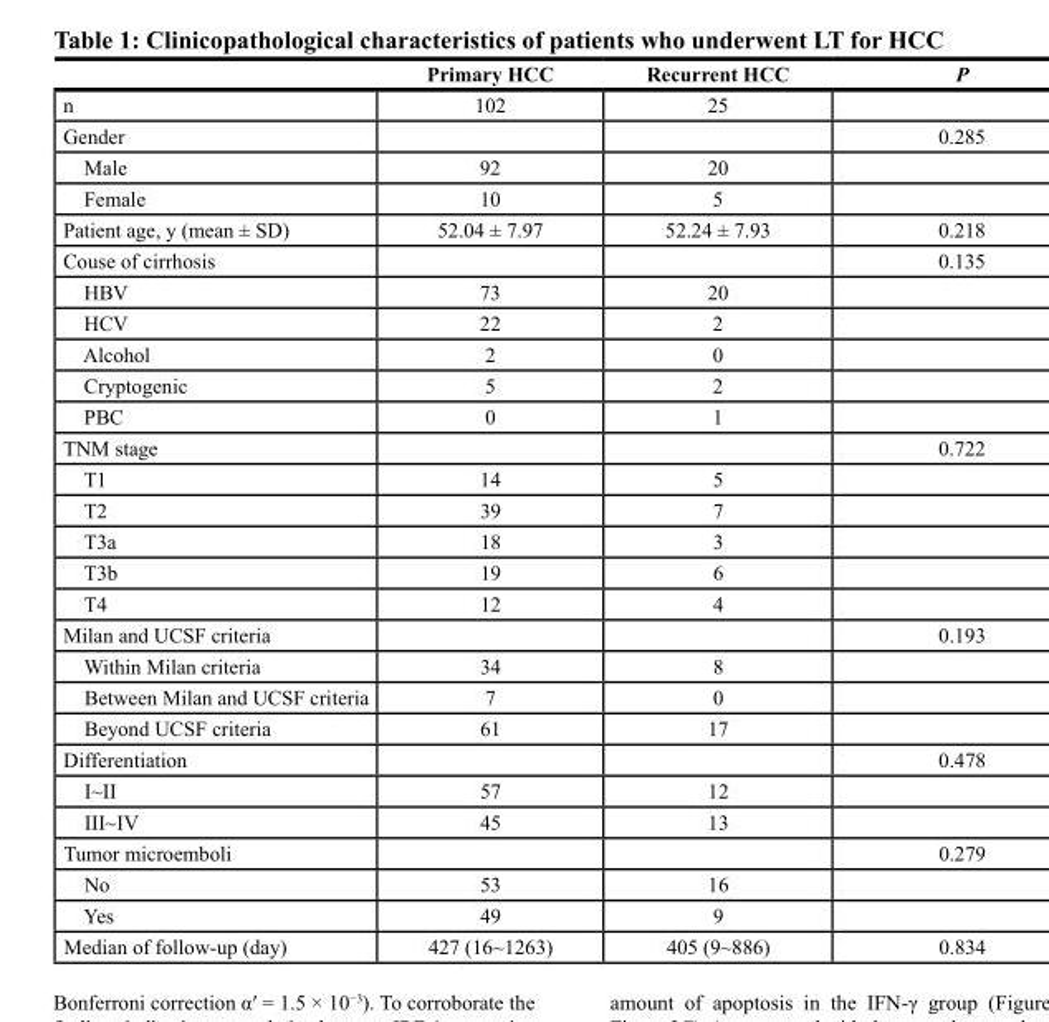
<table><thead><tr><td></td><td>Primary Hcc</td><td>recurrent Hcc</td><td>P</td></tr></thead><tbody><tr><td>n</td><td>102</td><td>25</td><td></td></tr><tr><td>Gender</td><td></td><td></td><td>0.285</td></tr><tr><td>Male</td><td>92</td><td>20</td><td></td></tr><tr><td>Female</td><td>10</td><td>5</td><td></td></tr><tr><td>Patient age, y (mean ± SD)</td><td>52.04 ± 7.97</td><td>52.24 ± 7.93</td><td>0.218</td></tr><tr><td>Couse of cirrhosis</td><td></td><td></td><td>0.135</td></tr><tr><td>HBV</td><td>73</td><td>20</td><td></td></tr><tr><td>HCV</td><td>22</td><td>2</td><td></td></tr><tr><td>Alcohol</td><td>2</td><td>0</td><td></td></tr><tr><td>Cryptogenic</td><td>5</td><td>2</td><td></td></tr><tr><td>PBC</td><td>0</td><td>1</td><td></td></tr><tr><td>TNM stage</td><td></td><td></td><td>0.722</td></tr><tr><td>T1</td><td>14</td><td>5</td><td></td></tr><tr><td>T2</td><td>39</td><td>7</td><td></td></tr><tr><td>T3a</td><td>18</td><td>3</td><td></td></tr><tr><td>T3b</td><td>19</td><td>6</td><td></td></tr><tr><td>T4</td><td>12</td><td>4</td><td></td></tr><tr><td>Milan and UCSF criteria</td><td></td><td></td><td>0.193</td></tr><tr><td>Within Milan criteria</td><td>34</td><td>8</td><td></td></tr><tr><td>Between Milan and UCSF criteria</td><td>7</td><td>0</td><td></td></tr><tr><td>Beyond UCSF criteria</td><td>61</td><td>17</td><td></td></tr><tr><td>Differentiation</td><td></td><td></td><td>0.478</td></tr><tr><td>I~II</td><td>57</td><td>12</td><td></td></tr><tr><td>III~IV</td><td>45</td><td>13</td><td></td></tr><tr><td>Tumor microemboli</td><td></td><td></td><td>0.279</td></tr><tr><td>No</td><td>53</td><td>16</td><td></td></tr><tr><td>Yes</td><td>49</td><td>9</td><td></td></tr><tr><td>Median of follow-up (day)</td><td>427 (16~1263)</td><td>405 (9~886)</td><td>0.834</td></tr></tbody></table>